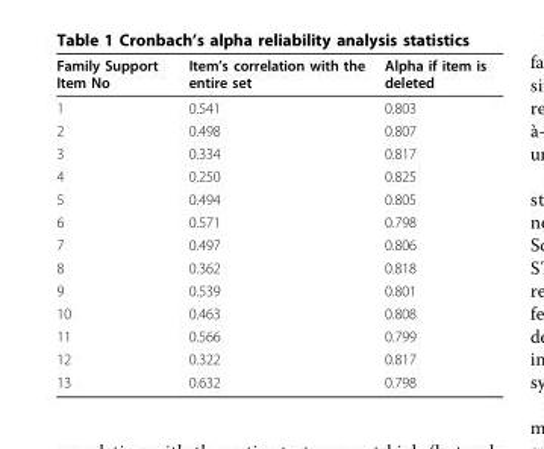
<table><thead><tr><td>Family Support Item No</td><td>Item’s correlation with the entire set</td><td>Alpha if item is deleted</td></tr></thead><tbody><tr><td>1</td><td>0.541</td><td>0.803</td></tr><tr><td>2</td><td>0.498</td><td>0.807</td></tr><tr><td>3</td><td>0.334</td><td>0.817</td></tr><tr><td>4</td><td>0.250</td><td>0.825</td></tr><tr><td>5</td><td>0.494</td><td>0.805</td></tr><tr><td>6</td><td>0.571</td><td>0.798</td></tr><tr><td>7</td><td>0.497</td><td>0.806</td></tr><tr><td>8</td><td>0.362</td><td>0.818</td></tr><tr><td>9</td><td>0.539</td><td>0.801</td></tr><tr><td>10</td><td>0.463</td><td>0.808</td></tr><tr><td>11</td><td>0.566</td><td>0.799</td></tr><tr><td>12</td><td>0.322</td><td>0.817</td></tr><tr><td>13</td><td>0.632</td><td>0.798</td></tr></tbody></table>